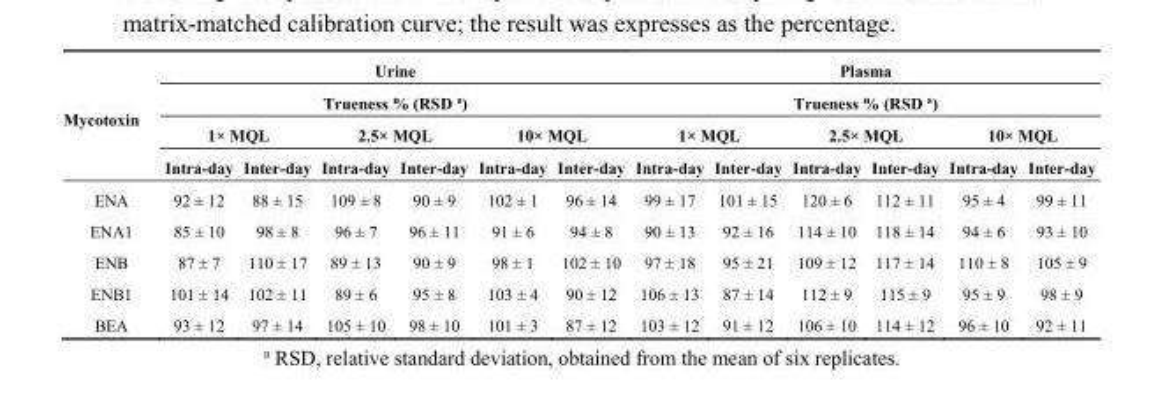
<table><thead><tr><td rowspan="4">Mycotoxin</td><td rowspan="2" colspan="6">Urine Trueness % (RSD <sup>a</sup>)</td><td rowspan="2" colspan="6">Plasma Trueness % (RSD <sup>a</sup>)</td></tr><tr></tr><tr><td colspan="2">1× MQL</td><td colspan="2">2.5× MQL</td><td colspan="2">10× MQL</td><td colspan="2">1× MQL</td><td colspan="2">2.5× MQL</td><td colspan="2">10× MQL</td></tr><tr><td>Intra-day</td><td>Inter-day</td><td>Intra-day</td><td>Inter-day</td><td>Intra-day</td><td>Inter-day</td><td>Intra-day</td><td>Inter-day</td><td>Intra-day</td><td>Inter-day</td><td>Intra-day</td><td>Inter-day</td></tr></thead><tbody><tr><td>ENA</td><td>92 ± 12</td><td>88 ± 15</td><td>109 ± 8</td><td>90 ± 9</td><td>102 ± 1</td><td>96 ± 14</td><td>99 ± 17</td><td>101 ± 15</td><td>120 ± 6</td><td>112 ± 11</td><td>95 ± 4</td><td>99 ± 11</td></tr><tr><td>ENA1</td><td>85 ± 10</td><td>98 ± 8</td><td>96 ± 7</td><td>96 ± 11</td><td>91 ± 6</td><td>94 ± 8</td><td>90 ± 13</td><td>92 ± 16</td><td>114 ± 10</td><td>118 ± 14</td><td>94 ± 6</td><td>93 ± 10</td></tr><tr><td>ENB</td><td>87 ± 7</td><td>110 ± 17</td><td>89 ± 13</td><td>90 ± 9</td><td>98 ± 1</td><td>102 ± 10</td><td>97 ± 18</td><td>95 ± 21</td><td>109 ± 12</td><td>117 ± 14</td><td>110 ± 8</td><td>105 ± 9</td></tr><tr><td>ENB1</td><td>101 ± 14</td><td>102 ± 11</td><td>89 ± 6</td><td>95 ± 8</td><td>103 ± 4</td><td>90 ± 12</td><td>106 ± 13</td><td>87 ± 14</td><td>112 ± 9</td><td>115 ± 9</td><td>95 ± 9</td><td>98 ± 9</td></tr><tr><td>BEA</td><td>93 ± 12</td><td>97 ± 14</td><td>105 ± 10</td><td>98 ± 10</td><td>101 ± 3</td><td>87 ± 12</td><td>103 ± 12</td><td>91 ± 12</td><td>106 ± 10</td><td>114 ± 12</td><td>96 ± 10</td><td>92 ± 11</td></tr></tbody></table>